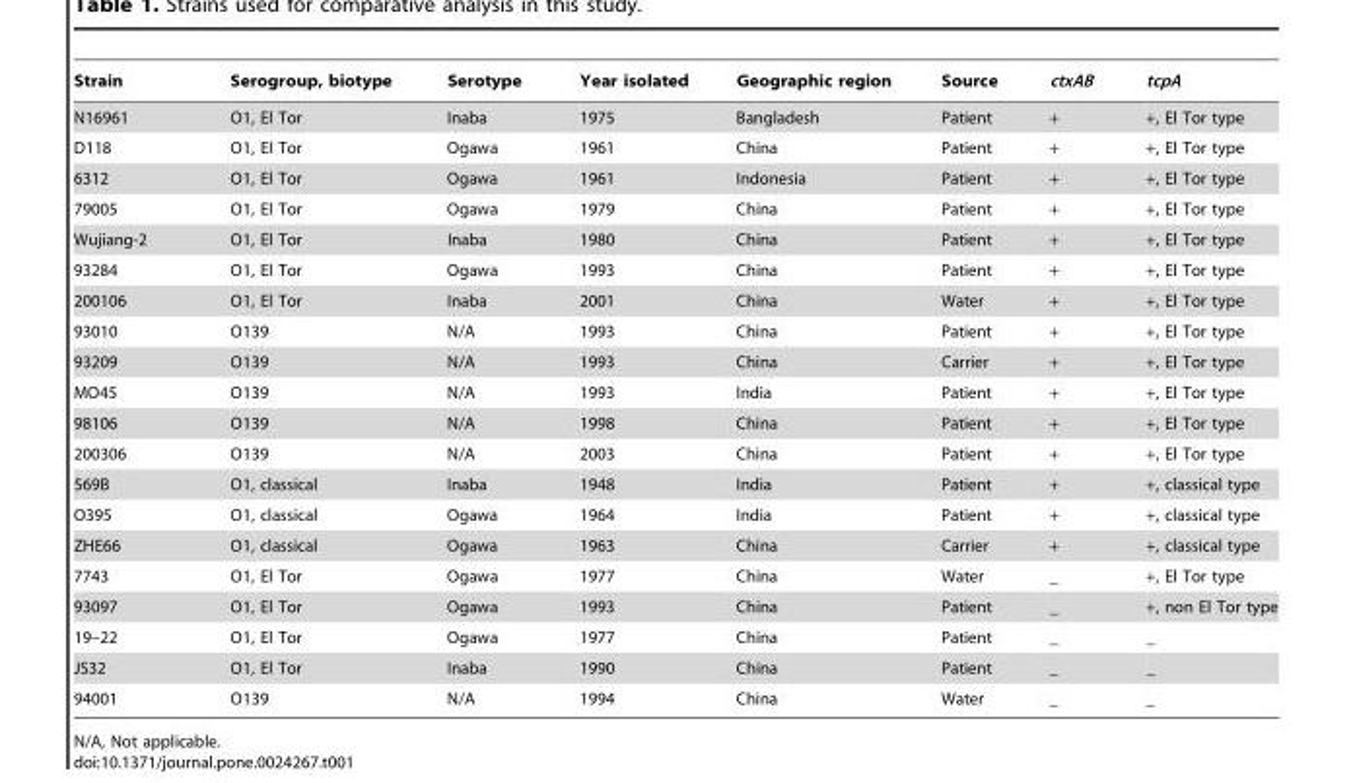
<table><thead><tr><td>Strain</td><td>Serogroup, biotype</td><td>Serotype</td><td>Year isolated</td><td>Geographic region</td><td>Source</td><td>ctxAB</td><td>tcpA</td></tr></thead><tbody><tr><td>N16961</td><td>O1, El Tor</td><td>Inaba</td><td>1975</td><td>Bangladesh</td><td>Patient</td><td>+</td><td>+, El Tor type</td></tr><tr><td>D118</td><td>O1, El Tor</td><td>Ogawa</td><td>1961</td><td>China</td><td>Patient</td><td>+</td><td>+, El Tor type</td></tr><tr><td>6312</td><td>O1, El Tor</td><td>Ogawa</td><td>1961</td><td>Indonesia</td><td>Patient</td><td>+</td><td>+, El Tor type</td></tr><tr><td>79005</td><td>O1, El Tor</td><td>Ogawa</td><td>1979</td><td>China</td><td>Patient</td><td>+</td><td>+, El Tor type</td></tr><tr><td>Wujiang-2</td><td>O1, El Tor</td><td>Inaba</td><td>1980</td><td>China</td><td>Patient</td><td>+</td><td>+, El Tor type</td></tr><tr><td>93284</td><td>O1, El Tor</td><td>Ogawa</td><td>1993</td><td>China</td><td>Patient</td><td>+</td><td>+, El Tor type</td></tr><tr><td>200106</td><td>O1, El Tor</td><td>Inaba</td><td>2001</td><td>China</td><td>Water</td><td>+</td><td>+, El Tor type</td></tr><tr><td>93010</td><td>O139</td><td>N/A</td><td>1993</td><td>China</td><td>Patient</td><td>+</td><td>+, El Tor type</td></tr><tr><td>93209</td><td>O139</td><td>N/A</td><td>1993</td><td>China</td><td>Carrier</td><td>+</td><td>+, El Tor type</td></tr><tr><td>MO45</td><td>O139</td><td>N/A</td><td>1993</td><td>India</td><td>Patient</td><td>+</td><td>+, El Tor type</td></tr><tr><td>98106</td><td>O139</td><td>N/A</td><td>1998</td><td>China</td><td>Patient</td><td>+</td><td>+, El Tor type</td></tr><tr><td>200306</td><td>O139</td><td>N/A</td><td>2003</td><td>China</td><td>Patient</td><td>+</td><td>+, El Tor type</td></tr><tr><td>569B</td><td>O1, classical</td><td>Inaba</td><td>1948</td><td>India</td><td>Patient</td><td>+</td><td>+, classical type</td></tr><tr><td>O395</td><td>O1, classical</td><td>Ogawa</td><td>1964</td><td>India</td><td>Patient</td><td>+</td><td>+, classical type</td></tr><tr><td>ZHE66</td><td>O1, classical</td><td>Ogawa</td><td>1963</td><td>China</td><td>Carrier</td><td>+</td><td>+, classical type</td></tr><tr><td>7743</td><td>O1, El Tor</td><td>Ogawa</td><td>1977</td><td>China</td><td>Water</td><td>_</td><td>+, El Tor type</td></tr><tr><td>93097</td><td>O1, El Tor</td><td>Ogawa</td><td>1993</td><td>China</td><td>Patient</td><td>_</td><td>+, non El Tor type</td></tr><tr><td>19–22</td><td>O1, El Tor</td><td>Ogawa</td><td>1977</td><td>China</td><td>Patient</td><td>_</td><td>_</td></tr><tr><td>JS32</td><td>O1, El Tor</td><td>Inaba</td><td>1990</td><td>China</td><td>Patient</td><td>_</td><td>_</td></tr><tr><td>94001</td><td>O139</td><td>N/A</td><td>1994</td><td>China</td><td>Water</td><td>_</td><td>_</td></tr></tbody></table>